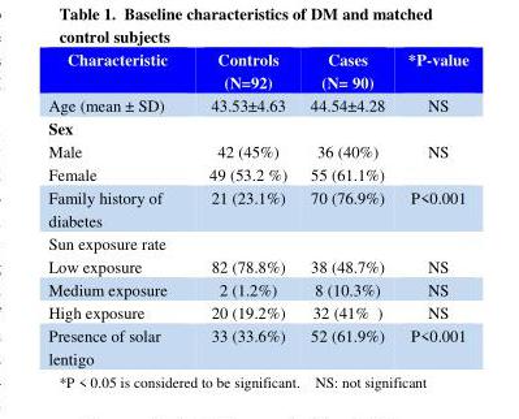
<table><thead><tr><td>Characteristic</td><td>Controls (N=92)</td><td>Cases (N= 90)</td><td>*P-value</td></tr></thead><tbody><tr><td>Age (mean ± SD)</td><td>43.53±4.63</td><td>44.54±4.28</td><td>NS</td></tr><tr><td colspan="4">Sex</td></tr><tr><td>Male Female</td><td>42 (45%) 49 (53.2 %)</td><td>36 (40%) 55 (61.1%)</td><td>NS</td></tr><tr><td>Family history of diabetes</td><td>21 (23.1%)</td><td>70 (76.9%)</td><td>P&lt;0.001</td></tr><tr><td colspan="4">Sun exposure rate</td></tr><tr><td>Low exposure</td><td>82 (78.8%)</td><td>38 (48.7%)</td><td>NS</td></tr><tr><td>Medium exposure</td><td>2 (1.2%)</td><td>8 (10.3%)</td><td>NS</td></tr><tr><td>High exposure</td><td>20 (19.2%)</td><td>32 (41% )</td><td>NS</td></tr><tr><td>Presence of solar lentigo</td><td>33 (33.6%)</td><td>52 (61.9%)</td><td>P&lt;0.001</td></tr></tbody></table>